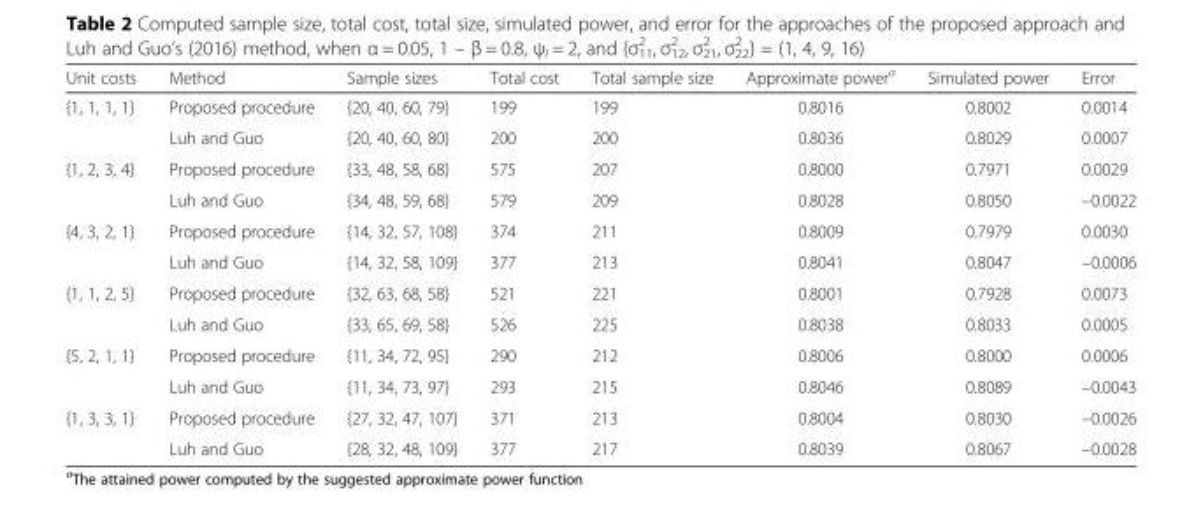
<table><thead><tr><td>Unit costs</td><td>Method</td><td>Sample sizes</td><td>Total cost</td><td>Total sample size</td><td>Approximate power<sup>a</sup></td><td>Simulated power</td><td>Error</td></tr></thead><tbody><tr><td rowspan="2">{1, 1, 1, 1}</td><td>Proposed procedure</td><td>{20, 40, 60, 79}</td><td>199</td><td>199</td><td>0.8016</td><td>0.8002</td><td>0.0014</td></tr><tr><td>Luh and Guo</td><td>{20, 40, 60, 80}</td><td>200</td><td>200</td><td>0.8036</td><td>0.8029</td><td>0.0007</td></tr><tr><td rowspan="2">{1, 2, 3, 4}</td><td>Proposed procedure</td><td>{33, 48, 58, 68}</td><td>575</td><td>207</td><td>0.8000</td><td>0.7971</td><td>0.0029</td></tr><tr><td>Luh and Guo</td><td>{34, 48, 59, 68}</td><td>579</td><td>209</td><td>0.8028</td><td>0.8050</td><td>–0.0022</td></tr><tr><td rowspan="2">{4, 3, 2, 1}</td><td>Proposed procedure</td><td>{14, 32, 57, 108}</td><td>374</td><td>211</td><td>0.8009</td><td>0.7979</td><td>0.0030</td></tr><tr><td>Luh and Guo</td><td>{14, 32, 58, 109}</td><td>377</td><td>213</td><td>0.8041</td><td>0.8047</td><td>–0.0006</td></tr><tr><td rowspan="2">{1, 1, 2, 5}</td><td>Proposed procedure</td><td>{32, 63, 68, 58}</td><td>521</td><td>221</td><td>0.8001</td><td>0.7928</td><td>0.0073</td></tr><tr><td>Luh and Guo</td><td>{33, 65, 69, 58}</td><td>526</td><td>225</td><td>0.8038</td><td>0.8033</td><td>0.0005</td></tr><tr><td rowspan="2">{5, 2, 1, 1}</td><td>Proposed procedure</td><td>{11, 34, 72, 95}</td><td>290</td><td>212</td><td>0.8006</td><td>0.8000</td><td>0.0006</td></tr><tr><td>Luh and Guo</td><td>{11, 34, 73, 97}</td><td>293</td><td>215</td><td>0.8046</td><td>0.8089</td><td>–0.0043</td></tr><tr><td rowspan="2">{1, 3, 3, 1}</td><td>Proposed procedure</td><td>{27, 32, 47, 107}</td><td>371</td><td>213</td><td>0.8004</td><td>0.8030</td><td>–0.0026</td></tr><tr><td>Luh and Guo</td><td>{28, 32, 48, 109}</td><td>377</td><td>217</td><td>0.8039</td><td>0.8067</td><td>–0.0028</td></tr></tbody></table>